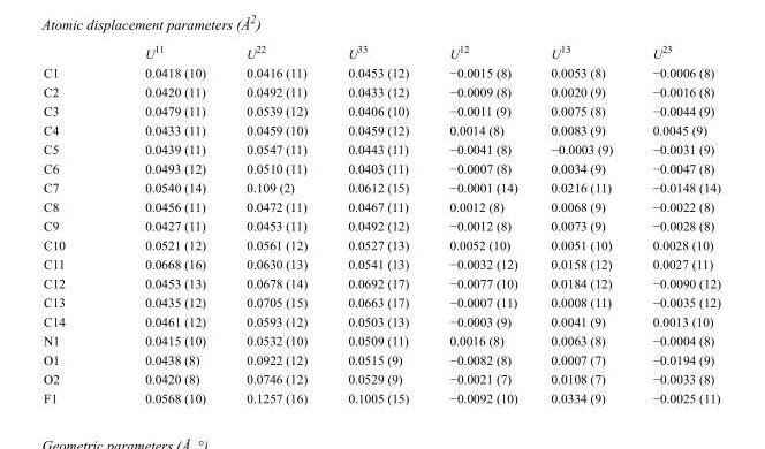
<table><thead><tr><td></td><td>U<sup>11</sup></td><td>U<sup>22</sup></td><td>U<sup>33</sup></td><td>U<sup>12</sup></td><td>U<sup>13</sup></td><td>U<sup>23</sup></td></tr></thead><tbody><tr><td>C1</td><td>0.0418 (10)</td><td>0.0416 (11)</td><td>0.0453 (12)</td><td>−0.0015 (8)</td><td>0.0053 (8)</td><td>−0.0006 (8)</td></tr><tr><td>C2</td><td>0.0420 (11)</td><td>0.0492 (11)</td><td>0.0433 (12)</td><td>−0.0009 (8)</td><td>0.0020 (9)</td><td>−0.0016 (8)</td></tr><tr><td>C3</td><td>0.0479 (11)</td><td>0.0539 (12)</td><td>0.0406 (10)</td><td>−0.0011 (9)</td><td>0.0075 (8)</td><td>−0.0044 (9)</td></tr><tr><td>C4</td><td>0.0433 (11)</td><td>0.0459 (10)</td><td>0.0459 (12)</td><td>0.0014 (8)</td><td>0.0083 (9)</td><td>0.0045 (9)</td></tr><tr><td>C5</td><td>0.0439 (11)</td><td>0.0547 (11)</td><td>0.0443 (11)</td><td>−0.0041 (8)</td><td>−0.0003 (9)</td><td>−0.0031 (9)</td></tr><tr><td>C6</td><td>0.0493 (12)</td><td>0.0510 (11)</td><td>0.0403 (11)</td><td>−0.0007 (8)</td><td>0.0034 (9)</td><td>−0.0047 (8)</td></tr><tr><td>C7</td><td>0.0540 (14)</td><td>0.109 (2)</td><td>0.0612 (15)</td><td>−0.0001 (14)</td><td>0.0216 (11)</td><td>−0.0148 (14)</td></tr><tr><td>C8</td><td>0.0456 (11)</td><td>0.0472 (11)</td><td>0.0467 (11)</td><td>0.0012 (8)</td><td>0.0068 (9)</td><td>−0.0022 (8)</td></tr><tr><td>C9</td><td>0.0427 (11)</td><td>0.0453 (11)</td><td>0.0492 (12)</td><td>−0.0012 (8)</td><td>0.0073 (9)</td><td>−0.0028 (8)</td></tr><tr><td>C10</td><td>0.0521 (12)</td><td>0.0561 (12)</td><td>0.0527 (13)</td><td>0.0052 (10)</td><td>0.0051 (10)</td><td>0.0028 (10)</td></tr><tr><td>C11</td><td>0.0668 (16)</td><td>0.0630 (13)</td><td>0.0541 (13)</td><td>−0.0032 (12)</td><td>0.0158 (12)</td><td>0.0027 (11)</td></tr><tr><td>C12</td><td>0.0453 (13)</td><td>0.0678 (14)</td><td>0.0692 (17)</td><td>−0.0077 (10)</td><td>0.0184 (12)</td><td>−0.0090 (12)</td></tr><tr><td>C13</td><td>0.0435 (12)</td><td>0.0705 (15)</td><td>0.0663 (17)</td><td>−0.0007 (11)</td><td>0.0008 (11)</td><td>−0.0035 (12)</td></tr><tr><td>C14</td><td>0.0461 (12)</td><td>0.0593 (12)</td><td>0.0503 (13)</td><td>−0.0003 (9)</td><td>0.0041 (9)</td><td>0.0013 (10)</td></tr><tr><td>N1</td><td>0.0415 (10)</td><td>0.0532 (10)</td><td>0.0509 (11)</td><td>0.0016 (8)</td><td>0.0063 (8)</td><td>−0.0004 (8)</td></tr><tr><td>O1</td><td>0.0438 (8)</td><td>0.0922 (12)</td><td>0.0515 (9)</td><td>−0.0082 (8)</td><td>0.0007 (7)</td><td>−0.0194 (9)</td></tr><tr><td>O2</td><td>0.0420 (8)</td><td>0.0746 (12)</td><td>0.0529 (9)</td><td>−0.0021 (7)</td><td>0.0108 (7)</td><td>−0.0033 (8)</td></tr><tr><td>F1</td><td>0.0568 (10)</td><td>0.1257 (16)</td><td>0.1005 (15)</td><td>−0.0092 (10)</td><td>0.0334 (9)</td><td>−0.0025 (11)</td></tr></tbody></table>